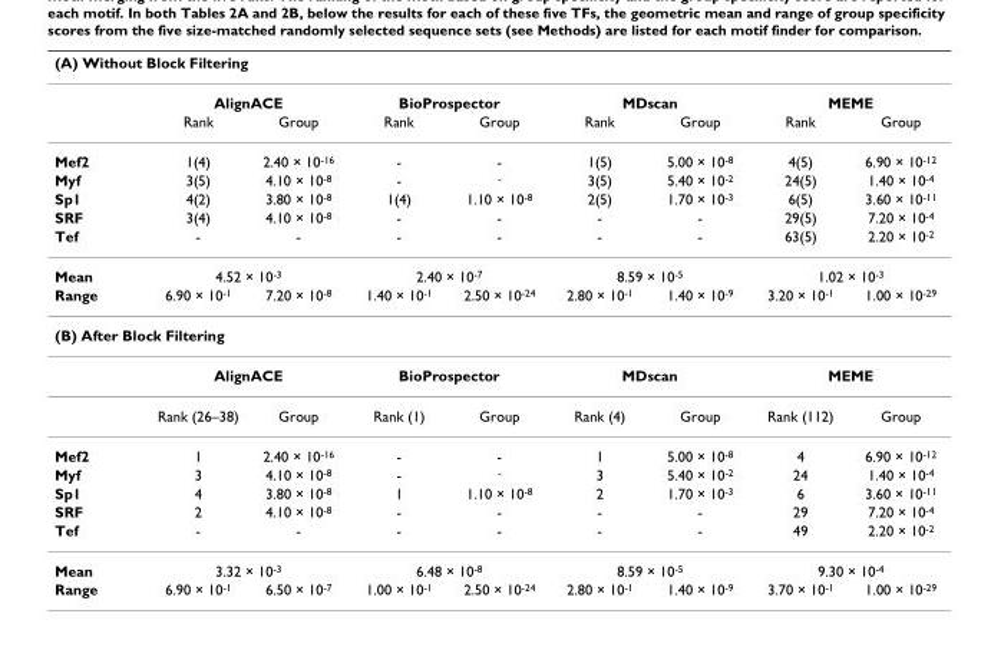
<table><thead><tr><td colspan="9">(A) Without Block Filtering</td></tr><tr><td rowspan="2"></td><td colspan="2">AlignACE</td><td colspan="2">BioProspector</td><td colspan="2">MDscan</td><td colspan="2">MEME</td></tr><tr><td>Rank</td><td>Group</td><td>Rank</td><td>Group</td><td>Rank</td><td>Group</td><td>Rank</td><td>Group</td></tr></thead><tbody><tr><td>Mef2</td><td>1(4)</td><td>2.40 × 10-16</td><td>-</td><td>-</td><td>1(5)</td><td>5.00 × 10-8</td><td>4(5)</td><td>6.90 × 10-12</td></tr><tr><td>Myf</td><td>3(5)</td><td>4.10 × 10-8</td><td>-</td><td>-</td><td>3(5)</td><td>5.40 × 10-2</td><td>24(5)</td><td>1.40 × 10-4</td></tr><tr><td>Sp1</td><td>4(2)</td><td>3.80 × 10-8</td><td>1(4)</td><td>1.10 × 10-8</td><td>2(5)</td><td>1.70 × 10-3</td><td>6(5)</td><td>3.60 × 10-11</td></tr><tr><td>SRF</td><td>3(4)</td><td>4.10 × 10-8</td><td>-</td><td>-</td><td>-</td><td>-</td><td>29(5)</td><td>7.20 × 10-4</td></tr><tr><td>Tef</td><td>-</td><td>-</td><td>-</td><td>-</td><td>-</td><td>-</td><td>63(5)</td><td>2.20 × 10-2</td></tr><tr><td>Mean</td><td colspan="2">4.52 × 10-3</td><td colspan="2">2.40 × 10-7</td><td colspan="2">8.59 × 10-5</td><td colspan="2">1.02 × 10-3</td></tr><tr><td>Range</td><td>6.90 × 10-1</td><td>7.20 × 10-8</td><td>1.40 × 10-1</td><td>2.50 × 10-24</td><td>2.80 × 10-1</td><td>1.40 × 10-9</td><td>3.20 × 10-1</td><td>1.00 × 10-29</td></tr><tr><td colspan="9">(B) After Block Filtering</td></tr><tr><td></td><td colspan="2">AlignACE</td><td colspan="2">BioProspector</td><td colspan="2">MDscan</td><td colspan="2">MEME</td></tr><tr><td></td><td>Rank (26–38)</td><td>Group</td><td>Rank (1)</td><td>Group</td><td>Rank (4)</td><td>Group</td><td>Rank (112)</td><td>Group</td></tr><tr><td>Mef2</td><td>1</td><td>2.40 × 10-16</td><td>-</td><td>-</td><td>1</td><td>5.00 × 10-8</td><td>4</td><td>6.90 × 10-12</td></tr><tr><td>Myf</td><td>3</td><td>4.10 × 10-8</td><td>-</td><td>-</td><td>3</td><td>5.40 × 10-2</td><td>24</td><td>1.40 × 10-4</td></tr><tr><td>Sp1</td><td>4</td><td>3.80 × 10-8</td><td>1</td><td>1.10 × 10-8</td><td>2</td><td>1.70 × 10-3</td><td>6</td><td>3.60 × 10-11</td></tr><tr><td>SRF</td><td>2</td><td>4.10 × 10-8</td><td>-</td><td>-</td><td>-</td><td>-</td><td>29</td><td>7.20 × 10-4</td></tr><tr><td>Tef</td><td>-</td><td>-</td><td>-</td><td>-</td><td>-</td><td>-</td><td>49</td><td>2.20 × 10-2</td></tr><tr><td>Mean</td><td colspan="2">3.32 × 10-3</td><td colspan="2">6.48 × 10-8</td><td colspan="2">8.59 × 10-5</td><td colspan="2">9.30 × 10-4</td></tr><tr><td>Range</td><td>6.90 × 10-1</td><td>6.50 × 10-7</td><td>1.00 × 10-1</td><td>2.50 × 10-24</td><td>2.80 × 10-1</td><td>1.40 × 10-9</td><td>3.70 × 10-1</td><td>1.00 × 10-29</td></tr></tbody></table>